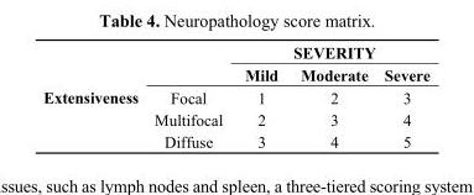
<table><tbody><tr><td rowspan="5">Extensiveness</td><td rowspan="2"></td><td colspan="3">SEVERITY</td></tr><tr><td>Mild</td><td>Moderate</td><td>Severe</td></tr><tr><td>Focal</td><td>1</td><td>2</td><td>3</td></tr><tr><td>Multifocal</td><td>2</td><td>3</td><td>4</td></tr><tr><td>Diffuse</td><td>3</td><td>4</td><td>5</td></tr></tbody></table>